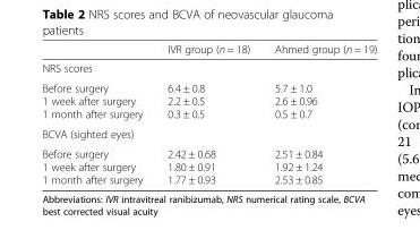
<table><thead><tr><td></td><td>IVR group (n = 18)</td><td>Ahmed group (n = 19)</td></tr></thead><tbody><tr><td colspan="3">NRS scores</td></tr><tr><td>Before surgery 1 week after surgery 1 month after surgery</td><td>6.4 ± 0.8 2.2 ± 0.5 0.3 ± 0.5</td><td>5.7 ± 1.0 2.6 ± 0.96 0.5 ± 0.7</td></tr><tr><td colspan="3">BCVA (sighted eyes)</td></tr><tr><td>Before surgery 1 week after surgery 1 month after surgery</td><td>2.42 ± 0.68 1.80 ± 0.91 1.77 ± 0.93</td><td>2.51 ± 0.84 1.92 ± 1.24 2.53 ± 0.85</td></tr></tbody></table>